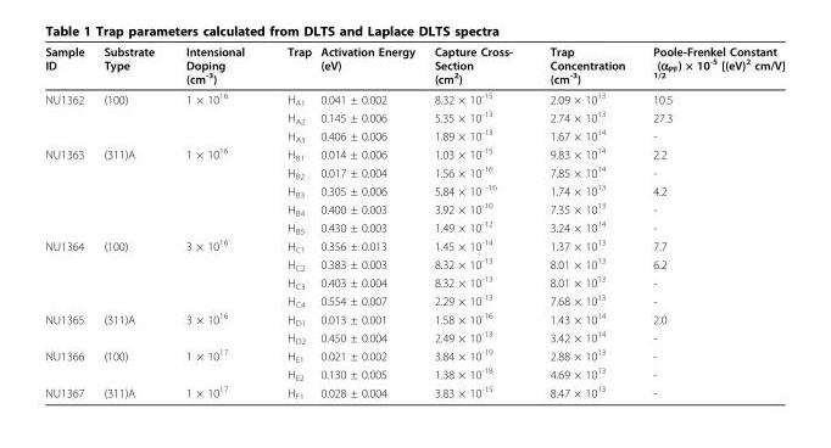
<table><thead><tr><td>Sample ID</td><td>Substrate Type</td><td>Intensional Doping (cm<sup>-3</sup>)</td><td>Trap</td><td>Activation Energy (eV)</td><td>Capture Cross- Section (cm<sup>2</sup>)</td><td>Trap Concentration (cm<sup>-3</sup>)</td><td>Poole-Frenkel Constant (α<sub>PF</sub>) × 10<sup>-5</sup> [(eV)<sup>2</sup> cm/V] <sup>1/2</sup></td></tr></thead><tbody><tr><td rowspan="3">NU1362</td><td>(100)</td><td>1 × 10<sup>16</sup></td><td>H<sub>A1</sub></td><td>0.041 ± 0.002</td><td>8.32 × 10<sup>-15</sup></td><td>2.09 × 10<sup>13</sup></td><td>10.5</td></tr><tr><td></td><td></td><td>H<sub>A2</sub></td><td>0.145 ± 0.006</td><td>5.35 × 10<sup>-13</sup></td><td>2.74 × 10<sup>13</sup></td><td>27.3</td></tr><tr><td></td><td></td><td>H<sub>A3</sub></td><td>0.406 ± 0.006</td><td>1.89 × 10<sup>-13</sup></td><td>1.67 × 10<sup>14</sup></td><td>-</td></tr><tr><td rowspan="5">NU1363</td><td>(311)A</td><td>1 × 10<sup>16</sup></td><td>H<sub>B1</sub></td><td>0.014 ± 0.006</td><td>1.03 × 10<sup>-15</sup></td><td>9.83 × 10<sup>14</sup></td><td>2.2</td></tr><tr><td></td><td></td><td>H<sub>B2</sub></td><td>0.017 ± 0.004</td><td>1.56 × 10<sup>-16</sup></td><td>7.85 × 10<sup>14</sup></td><td>-</td></tr><tr><td></td><td></td><td>H<sub>B3</sub></td><td>0.305 ± 0.006</td><td>5.84 × 10 <sup>-16</sup></td><td>1.74 × 10<sup>13</sup></td><td>4.2</td></tr><tr><td></td><td></td><td>H<sub>B4</sub></td><td>0.400 ± 0.003</td><td>3.92 × 10<sup>-10</sup></td><td>7.35 × 10<sup>13</sup></td><td>-</td></tr><tr><td></td><td></td><td>H<sub>B5</sub></td><td>0.430 ± 0.003</td><td>1.49 × 10<sup>-12</sup></td><td>3.24 × 10<sup>14</sup></td><td>-</td></tr><tr><td rowspan="4">NU1364</td><td>(100)</td><td>3 × 10<sup>16</sup></td><td>H<sub>C1</sub></td><td>0.356 ± 0.013</td><td>1.45 × 10<sup>-14</sup></td><td>1.37 × 10<sup>13</sup></td><td>7.7</td></tr><tr><td></td><td></td><td>H<sub>C2</sub></td><td>0.383 ± 0.003</td><td>8.32 × 10<sup>-13</sup></td><td>8.01 × 10<sup>13</sup></td><td>6.2</td></tr><tr><td></td><td></td><td>H<sub>C3</sub></td><td>0.403 ± 0.004</td><td>8.32 × 10<sup>-13</sup></td><td>8.01 × 10<sup>13</sup></td><td>-</td></tr><tr><td></td><td></td><td>H<sub>C4</sub></td><td>0.554 ± 0.007</td><td>2.29 × 10<sup>-13</sup></td><td>7.68 × 10<sup>13</sup></td><td>-</td></tr><tr><td rowspan="2">NU1365</td><td>(311)A</td><td>3 × 10<sup>16</sup></td><td>H<sub>D1</sub></td><td>0.013 ± 0.001</td><td>1.58 × 10<sup>-16</sup></td><td>1.43 × 10<sup>14</sup></td><td>2.0</td></tr><tr><td></td><td></td><td>H<sub>D2</sub></td><td>0.450 ± 0.004</td><td>2.49 × 10<sup>-13</sup></td><td>3.42 × 10<sup>14</sup></td><td>-</td></tr><tr><td rowspan="2">NU1366</td><td>(100)</td><td>1 × 10<sup>17</sup></td><td>H<sub>E1</sub></td><td>0.021 ± 0.002</td><td>3.84 × 10<sup>-19</sup></td><td>2.88 × 10<sup>13</sup></td><td>-</td></tr><tr><td></td><td></td><td>H<sub>E2</sub></td><td>0.130 ± 0.005</td><td>1.38 × 10<sup>-18</sup></td><td>4.69 × 10<sup>13</sup></td><td>-</td></tr><tr><td>NU1367</td><td>(311)A</td><td>1 × 10<sup>17</sup></td><td>H<sub>F1</sub></td><td>0.028 ± 0.004</td><td>3.83 × 10<sup>-15</sup></td><td>8.47 × 10<sup>13</sup></td><td>-</td></tr></tbody></table>